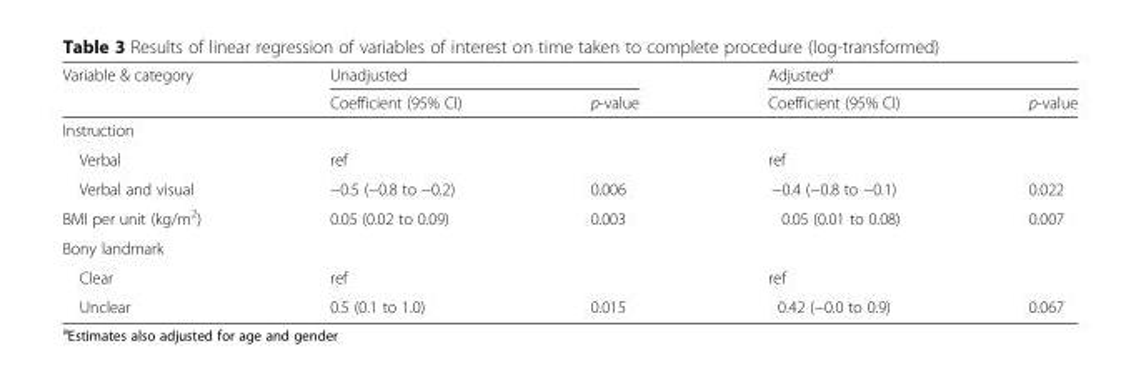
<table><thead><tr><td rowspan="2">Variable &amp; category</td><td colspan="2">Unadjusted</td><td colspan="2">Adjusted<sup>a</sup></td></tr><tr><td>Coefficient (95% CI)</td><td>p-value</td><td>Coefficient (95% CI)</td><td>p-value</td></tr></thead><tbody><tr><td colspan="5">Instruction</td></tr><tr><td>Verbal</td><td>ref</td><td></td><td>ref</td><td></td></tr><tr><td>Verbal and visual</td><td>−0.5 (−0.8 to −0.2)</td><td>0.006</td><td>−0.4 (−0.8 to −0.1)</td><td>0.022</td></tr><tr><td>BMI per unit (kg/m<sup>2</sup>)</td><td>0.05 (0.02 to 0.09)</td><td>0.003</td><td>0.05 (0.01 to 0.08)</td><td>0.007</td></tr><tr><td colspan="5">Bony landmark</td></tr><tr><td>Clear</td><td>ref</td><td></td><td>ref</td><td></td></tr><tr><td>Unclear</td><td>0.5 (0.1 to 1.0)</td><td>0.015</td><td>0.42 (−0.0 to 0.9)</td><td>0.067</td></tr></tbody></table>